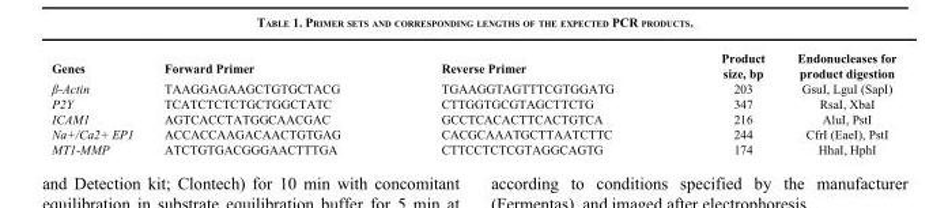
<table><thead><tr><td>Genes</td><td>Forward Primer</td><td>Reverse Primer</td><td>Product size, bp</td><td>Endonucleases for product digestion</td></tr></thead><tbody><tr><td>β-Actin</td><td>TAAGGAGAAGCTGTGCTACG</td><td>TGAAGGTAGTTTCGTGGATG</td><td>203</td><td>GsuI, LguI (SapI)</td></tr><tr><td>P2Y</td><td>TCATCTCTCTGCTGGCTATC</td><td>CTTGGTGCGTAGCTTCTG</td><td>347</td><td>RsaI, XbaI</td></tr><tr><td>ICAM1</td><td>AGTCACCTATGGCAACGAC</td><td>GCCTCACACTTCACTGTCA</td><td>216</td><td>AluI, PstI</td></tr><tr><td>Na+/Ca2+ EP1</td><td>ACCACCAAGACAACTGTGAG</td><td>CACGCAAATGCTTAATCTTC</td><td>244</td><td>CfrI (EaeI), PstI</td></tr><tr><td>MT1-MMP</td><td>ATCTGTGACGGGAACTTTGA</td><td>CTTCCTCTCGTAGGCAGTG</td><td>174</td><td>HhaI, HphI</td></tr></tbody></table>